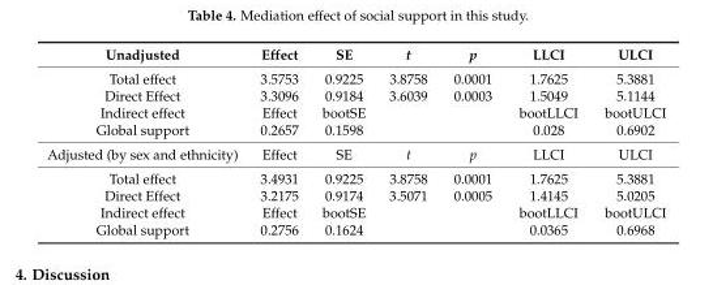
<table><tbody><tr><td>Unadjusted</td><td>Effect</td><td>SE</td><td>t</td><td>p</td><td>LLCI</td><td>ULCI</td></tr><tr><td>Total effect</td><td>3.5753</td><td>0.9225</td><td>3.8758</td><td>0.0001</td><td>1.7625</td><td>5.3881</td></tr><tr><td>Direct Effect</td><td>3.3096</td><td>0.9184</td><td>3.6039</td><td>0.0003</td><td>1.5049</td><td>5.1144</td></tr><tr><td>Indirect effect</td><td>Effect</td><td>bootSE</td><td></td><td></td><td>bootLLCI</td><td>bootULCI</td></tr><tr><td>Global support</td><td>0.2657</td><td>0.1598</td><td></td><td></td><td>0.028</td><td>0.6902</td></tr><tr><td>Adjusted (by sex and ethnicity)</td><td>Effect</td><td>SE</td><td>t</td><td>p</td><td>LLCI</td><td>ULCI</td></tr><tr><td>Total effect</td><td>3.4931</td><td>0.9225</td><td>3.8758</td><td>0.0001</td><td>1.7625</td><td>5.3881</td></tr><tr><td>Direct Effect</td><td>3.2175</td><td>0.9174</td><td>3.5071</td><td>0.0005</td><td>1.4145</td><td>5.0205</td></tr><tr><td>Indirect effect</td><td>Effect</td><td>bootSE</td><td></td><td></td><td>bootLLCI</td><td>bootULCI</td></tr><tr><td>Global support</td><td>0.2756</td><td>0.1624</td><td></td><td></td><td>0.0365</td><td>0.6968</td></tr></tbody></table>